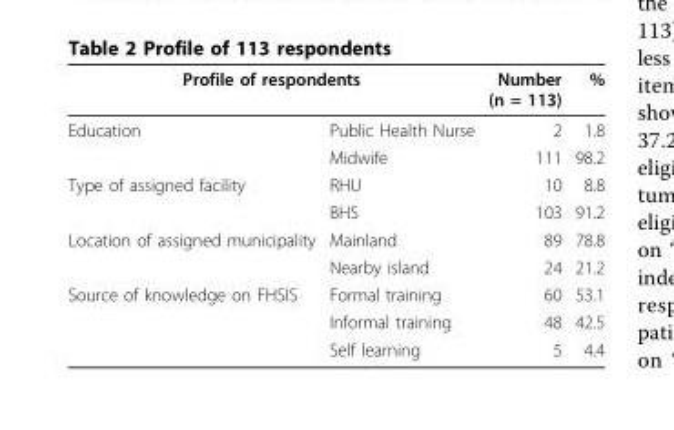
<table><thead><tr><td colspan="2">Profile of respondents</td><td rowspan="2">Number (n = 113) 2</td><td rowspan="2">% 1.8</td></tr><tr><td>Education</td><td>Public Health Nurse</td></tr></thead><tbody><tr><td></td><td>Midwife</td><td>111</td><td>98.2</td></tr><tr><td rowspan="2">Type of assigned facility</td><td>RHU</td><td>10</td><td>8.8</td></tr><tr><td>BHS</td><td>103</td><td>91.2</td></tr><tr><td rowspan="2">Location of assigned municipality</td><td>Mainland</td><td>89</td><td>78.8</td></tr><tr><td>Nearby island</td><td>24</td><td>21.2</td></tr><tr><td rowspan="3">Source of knowledge on FHSIS</td><td>Formal training</td><td>60</td><td>53.1</td></tr><tr><td>Informal training</td><td>48</td><td>42.5</td></tr><tr><td>Self learning</td><td>5</td><td>4.4</td></tr></tbody></table>